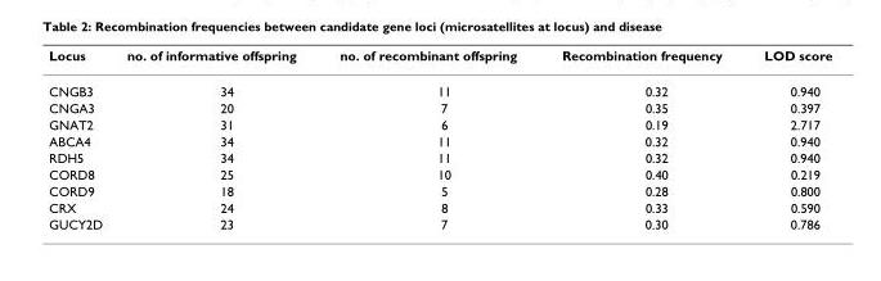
<table><thead><tr><td>Locus</td><td>no. of informative offspring</td><td>no. of recombinant offspring</td><td>Recombination frequency</td><td>LOD score</td></tr></thead><tbody><tr><td>CNGB3</td><td>34</td><td>11</td><td>0.32</td><td>0.940</td></tr><tr><td>CNGA3</td><td>20</td><td>7</td><td>0.35</td><td>0.397</td></tr><tr><td>GNAT2</td><td>31</td><td>6</td><td>0.19</td><td>2.717</td></tr><tr><td>ABCA4</td><td>34</td><td>11</td><td>0.32</td><td>0.940</td></tr><tr><td>RDH5</td><td>34</td><td>11</td><td>0.32</td><td>0.940</td></tr><tr><td>CORD8</td><td>25</td><td>10</td><td>0.40</td><td>0.219</td></tr><tr><td>CORD9</td><td>18</td><td>5</td><td>0.28</td><td>0.800</td></tr><tr><td>CRX</td><td>24</td><td>8</td><td>0.33</td><td>0.590</td></tr><tr><td>GUCY2D</td><td>23</td><td>7</td><td>0.30</td><td>0.786</td></tr></tbody></table>